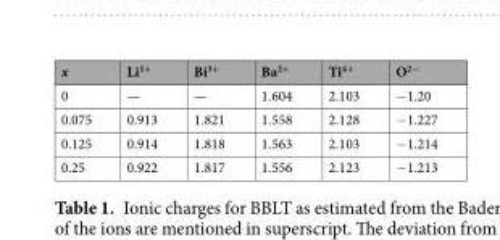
<table><thead><tr><td>x</td><td>Li<sup>1+</sup></td><td>Bi<sup>3+</sup></td><td>Ba<sup>2+</sup></td><td>Ti<sup>4+</sup></td><td>O<sup>2−</sup></td></tr></thead><tbody><tr><td>0</td><td>—</td><td>—</td><td>1.604</td><td>2.103</td><td>−1.20</td></tr><tr><td>0.075</td><td>0.913</td><td>1.821</td><td>1.558</td><td>2.128</td><td>−1.227</td></tr><tr><td>0.125</td><td>0.914</td><td>1.818</td><td>1.563</td><td>2.103</td><td>−1.214</td></tr><tr><td>0.25</td><td>0.922</td><td>1.817</td><td>1.556</td><td>2.123</td><td>−1.213</td></tr></tbody></table>